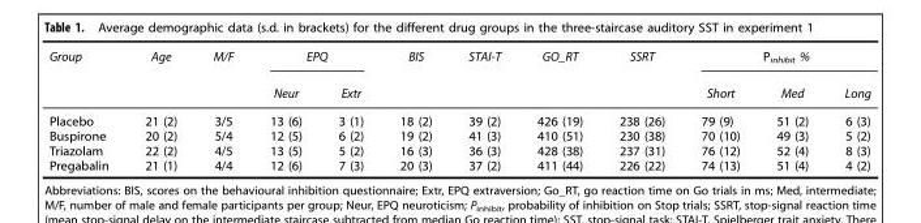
<table><thead><tr><td rowspan="2">Group</td><td rowspan="2">Age</td><td rowspan="2">M/F</td><td colspan="2">EPQ</td><td rowspan="2">BIS</td><td rowspan="2">STAI-T</td><td rowspan="2">GO_RT</td><td rowspan="2">SSRT</td><td colspan="3">P<sub>inhibit</sub> %</td></tr><tr><td>Neur</td><td>Extr</td><td>Short</td><td>Med</td><td>Long</td></tr></thead><tbody><tr><td>Placebo</td><td>21 (2)</td><td>3/5</td><td>13 (6)</td><td>3 (1)</td><td>18 (2)</td><td>39 (2)</td><td>426 (19)</td><td>238 (26)</td><td>79 (9)</td><td>51 (2)</td><td>6 (3)</td></tr><tr><td>Buspirone</td><td>20 (2)</td><td>5/4</td><td>12 (5)</td><td>6 (2)</td><td>19 (2)</td><td>41 (3)</td><td>410 (51)</td><td>230 (38)</td><td>70 (10)</td><td>49 (3)</td><td>5 (2)</td></tr><tr><td>Triazolam</td><td>22 (2)</td><td>4/5</td><td>13 (5)</td><td>5 (2)</td><td>16 (3)</td><td>36 (3)</td><td>428 (38)</td><td>237 (31)</td><td>76 (12)</td><td>52 (4)</td><td>8 (3)</td></tr><tr><td>Pregabalin</td><td>21 (1)</td><td>4/4</td><td>12 (6)</td><td>7 (3)</td><td>20 (3)</td><td>37 (2)</td><td>411 (44)</td><td>226 (22)</td><td>74 (13)</td><td>51 (4)</td><td>4 (2)</td></tr></tbody></table>